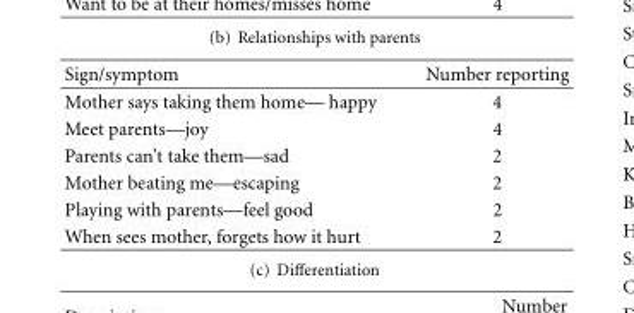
<table><thead><tr><td>Sign/symptom</td><td>Number reporting</td></tr></thead><tbody><tr><td>Mother says taking them home— happy</td><td>4</td></tr><tr><td>Meet parents—joy</td><td>4</td></tr><tr><td>Parents can’t take them—sad</td><td>2</td></tr><tr><td>Mother beating me—escaping</td><td>2</td></tr><tr><td>Playing with parents—feel good</td><td>2</td></tr><tr><td>When sees mother, forgets how it hurt</td><td>2</td></tr></tbody></table>